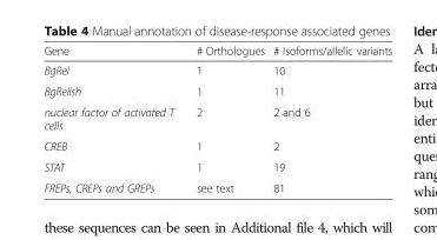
<table><thead><tr><td>Gene</td><td># Orthologues</td><td># Isoforms/allelic variants</td></tr></thead><tbody><tr><td>BgRel</td><td>1</td><td>10</td></tr><tr><td>BgRelish</td><td>1</td><td>11</td></tr><tr><td>nuclear factor of activated T cells</td><td>2</td><td>2 and 6</td></tr><tr><td>CREB</td><td>1</td><td>2</td></tr><tr><td>STAT</td><td>1</td><td>19</td></tr><tr><td>FREPs, CREPs and GREPs</td><td>see text</td><td>81</td></tr></tbody></table>